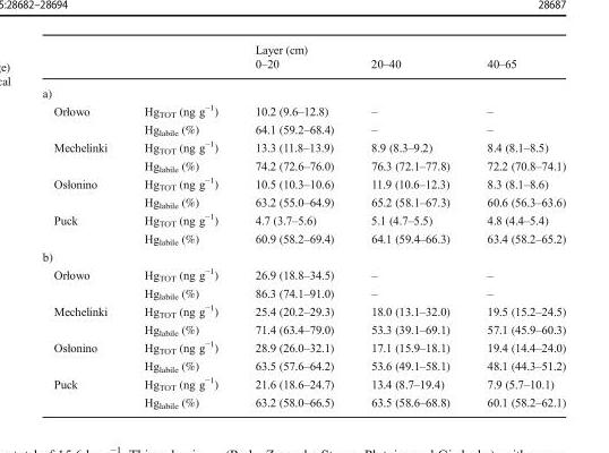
<table><thead><tr><td rowspan="2"></td><td rowspan="2"></td><td rowspan="2">Layer (cm) 0–20</td><td rowspan="2">20–40</td><td rowspan="2">40–65</td></tr><tr></tr></thead><tbody><tr><td colspan="5">a)</td></tr><tr><td rowspan="2">Orłowo</td><td>Hg<sub>TOT</sub> (ng g<sup>−1</sup>)</td><td>10.2 (9.6–12.8)</td><td>–</td><td>–</td></tr><tr><td>Hg<sub>labile</sub> (%)</td><td>64.1 (59.2–68.4)</td><td>–</td><td>–</td></tr><tr><td rowspan="2">Mechelinki</td><td>Hg<sub>TOT</sub> (ng g<sup>−1</sup>)</td><td>13.3 (11.8–13.9)</td><td>8.9 (8.3–9.2)</td><td>8.4 (8.1–8.5)</td></tr><tr><td>Hg<sub>labile</sub> (%)</td><td>74.2 (72.6–76.0)</td><td>76.3 (72.1–77.8)</td><td>72.2 (70.8–74.1)</td></tr><tr><td rowspan="2">Osłonino</td><td>Hg<sub>TOT</sub> (ng g<sup>−1</sup>)</td><td>10.5 (10.3–10.6)</td><td>11.9 (10.6–12.3)</td><td>8.3 (8.1–8.6)</td></tr><tr><td>Hg<sub>labile</sub> (%)</td><td>63.2 (55.0–64.9)</td><td>65.2 (58.1–67.3)</td><td>60.6 (56.3–63.6)</td></tr><tr><td rowspan="2">Puck</td><td>Hg<sub>TOT</sub> (ng g<sup>−1</sup>)</td><td>4.7 (3.7–5.6)</td><td>5.1 (4.7–5.5)</td><td>4.8 (4.4–5.4)</td></tr><tr><td>Hg<sub>labile</sub> (%)</td><td>60.9 (58.2–69.4)</td><td>64.1 (59.4–66.3)</td><td>63.4 (58.2–65.2)</td></tr><tr><td colspan="5">b)</td></tr><tr><td rowspan="2">Orłowo</td><td>Hg<sub>TOT</sub> (ng g<sup>−1</sup>)</td><td>26.9 (18.8–34.5)</td><td>–</td><td>–</td></tr><tr><td>Hg<sub>labile</sub> (%)</td><td>86.3 (74.1–91.0)</td><td>–</td><td>–</td></tr><tr><td rowspan="2">Mechelinki</td><td>Hg<sub>TOT</sub> (ng g<sup>−1</sup>)</td><td>25.4 (20.2–29.3)</td><td>18.0 (13.1–32.0)</td><td>19.5 (15.2–24.5)</td></tr><tr><td>Hg<sub>labile</sub> (%)</td><td>71.4 (63.4–79.0)</td><td>53.3 (39.1–69.1)</td><td>57.1 (45.9–60.3)</td></tr><tr><td rowspan="2">Osłonino</td><td>Hg<sub>TOT</sub> (ng g<sup>−1</sup>)</td><td>28.9 (26.0–32.1)</td><td>17.1 (15.9–18.1)</td><td>19.4 (14.4–24.0)</td></tr><tr><td>Hg<sub>labile</sub> (%)</td><td>63.5 (57.6–64.2)</td><td>53.6 (49.1–58.1)</td><td>48.1 (44.3–51.2)</td></tr><tr><td rowspan="2">Puck</td><td>Hg<sub>TOT</sub> (ng g<sup>−1</sup>)</td><td>21.6 (18.6–24.7)</td><td>13.4 (8.7–19.4)</td><td>7.9 (5.7–10.1)</td></tr><tr><td>Hg<sub>labile</sub> (%)</td><td>63.2 (58.0–66.5)</td><td>63.5 (58.6–68.8)</td><td>60.1 (58.2–62.1)</td></tr></tbody></table>